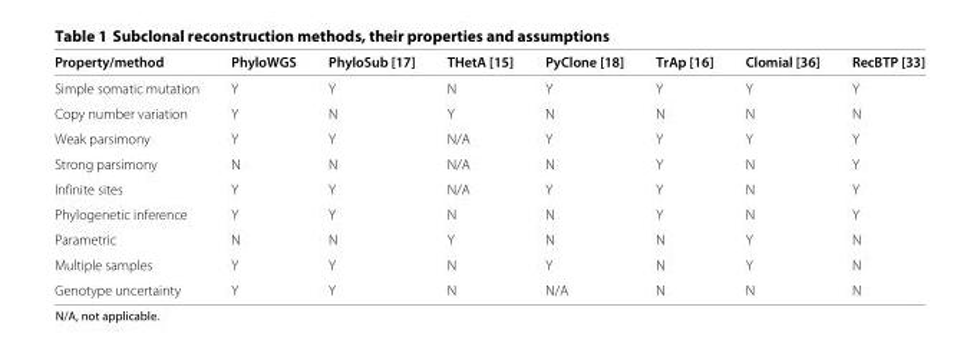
<table><thead><tr><td>Property/method</td><td>PhyloWGS</td><td>PhyloSub [17]</td><td>THetA [15]</td><td>PyClone [18]</td><td>TrAp [16]</td><td>Clomial [36]</td><td>RecBTP [33]</td></tr></thead><tbody><tr><td>Simple somatic mutation</td><td>Y</td><td>Y</td><td>N</td><td>Y</td><td>Y</td><td>Y</td><td>Y</td></tr><tr><td>Copy number variation</td><td>Y</td><td>N</td><td>Y</td><td>N</td><td>N</td><td>N</td><td>N</td></tr><tr><td>Weak parsimony</td><td>Y</td><td>Y</td><td>N/A</td><td>Y</td><td>Y</td><td>Y</td><td>Y</td></tr><tr><td>Strong parsimony</td><td>N</td><td>N</td><td>N/A</td><td>N</td><td>Y</td><td>N</td><td>Y</td></tr><tr><td>Infinite sites</td><td>Y</td><td>Y</td><td>N/A</td><td>Y</td><td>Y</td><td>N</td><td>Y</td></tr><tr><td>Phylogenetic inference</td><td>Y</td><td>Y</td><td>N</td><td>N</td><td>Y</td><td>N</td><td>Y</td></tr><tr><td>Parametric</td><td>N</td><td>N</td><td>Y</td><td>N</td><td>N</td><td>Y</td><td>N</td></tr><tr><td>Multiple samples</td><td>Y</td><td>Y</td><td>N</td><td>Y</td><td>N</td><td>Y</td><td>N</td></tr><tr><td>Genotype uncertainty</td><td>Y</td><td>Y</td><td>N</td><td>N/A</td><td>N</td><td>N</td><td>N</td></tr></tbody></table>